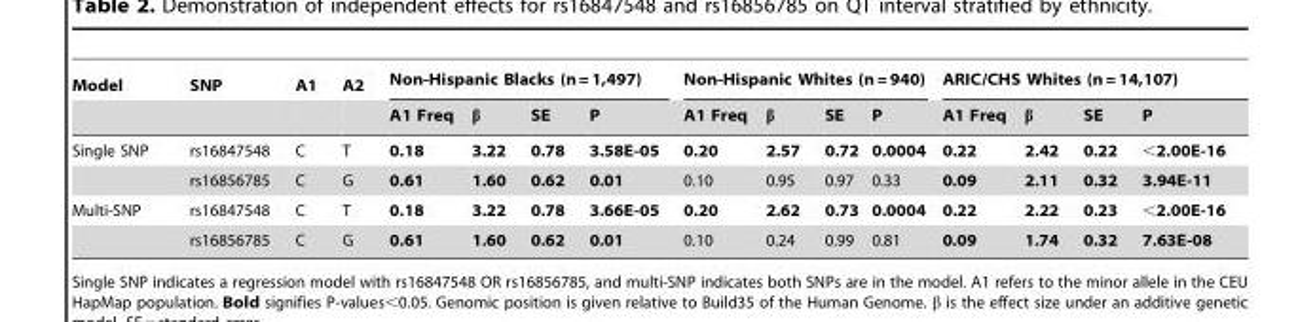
<table><thead><tr><td rowspan="2">Model</td><td rowspan="2">SNP</td><td rowspan="2">A1</td><td rowspan="2">A2</td><td colspan="4">Non-Hispanic Blacks (n = 1,497)</td><td colspan="4">Non-Hispanic Whites (n = 940)</td><td colspan="4">ARIC/CHS Whites (n = 14,107)</td></tr><tr><td>A1 Freq</td><td>β</td><td>SE</td><td>P</td><td>A1 Freq</td><td>β</td><td>SE</td><td>P</td><td>A1 Freq</td><td>β</td><td>SE</td><td>P</td></tr></thead><tbody><tr><td rowspan="2">Single SNP</td><td>rs16847548</td><td>C</td><td>T</td><td>0.18</td><td>3.22</td><td>0.78</td><td>3.58E-05</td><td>0.20</td><td>2.57</td><td>0.72</td><td>0.0004</td><td>0.22</td><td>2.42</td><td>0.22</td><td>&lt;2.00E-16</td></tr><tr><td>rs16856785</td><td>C</td><td>G</td><td>0.61</td><td>1.60</td><td>0.62</td><td>0.01</td><td>0.10</td><td>0.95</td><td>0.97</td><td>0.33</td><td>0.09</td><td>2.11</td><td>0.32</td><td>3.94E-11</td></tr><tr><td rowspan="2">Multi-SNP</td><td>rs16847548</td><td>C</td><td>T</td><td>0.18</td><td>3.22</td><td>0.78</td><td>3.66E-05</td><td>0.20</td><td>2.62</td><td>0.73</td><td>0.0004</td><td>0.22</td><td>2.22</td><td>0.23</td><td>&lt;2.00E-16</td></tr><tr><td>rs16856785</td><td>C</td><td>G</td><td>0.61</td><td>1.60</td><td>0.62</td><td>0.01</td><td>0.10</td><td>0.24</td><td>0.99</td><td>0.81</td><td>0.09</td><td>1.74</td><td>0.32</td><td>7.63E-08</td></tr></tbody></table>